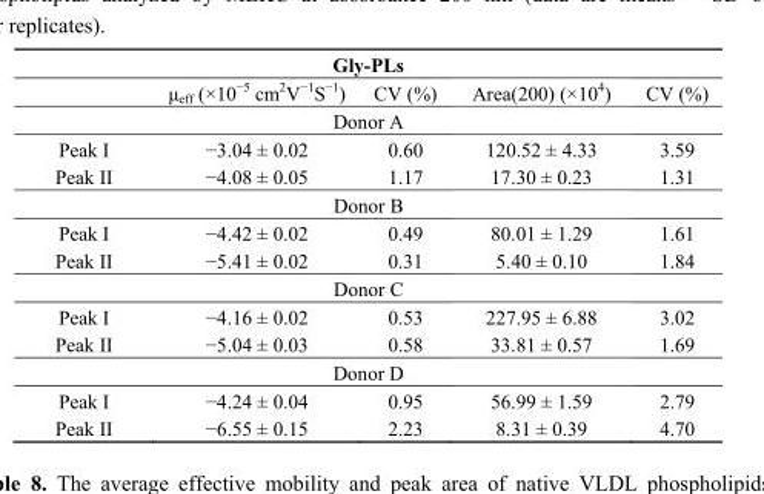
<table><thead><tr><td colspan="5">Gly-PLs</td></tr><tr><td></td><td>μ<sub>eff</sub> (×10<sup>−5</sup> cm<sup>2</sup>V<sup>−1</sup>S<sup>−1</sup>)</td><td>CV (%)</td><td>Area(200) (×10<sup>4</sup>)</td><td>CV (%)</td></tr></thead><tbody><tr><td colspan="5">Donor A</td></tr><tr><td>Peak I</td><td>−3.04 ± 0.02</td><td>0.60</td><td>120.52 ± 4.33</td><td>3.59</td></tr><tr><td>Peak II</td><td>−4.08 ± 0.05</td><td>1.17</td><td>17.30 ± 0.23</td><td>1.31</td></tr><tr><td colspan="5">Donor B</td></tr><tr><td>Peak I</td><td>−4.42 ± 0.02</td><td>0.49</td><td>80.01 ± 1.29</td><td>1.61</td></tr><tr><td>Peak II</td><td>−5.41 ± 0.02</td><td>0.31</td><td>5.40 ± 0.10</td><td>1.84</td></tr><tr><td colspan="5">Donor C</td></tr><tr><td>Peak I</td><td>−4.16 ± 0.02</td><td>0.53</td><td>227.95 ± 6.88</td><td>3.02</td></tr><tr><td>Peak II</td><td>−5.04 ± 0.03</td><td>0.58</td><td>33.81 ± 0.57</td><td>1.69</td></tr><tr><td colspan="5">Donor D</td></tr><tr><td>Peak I</td><td>−4.24 ± 0.04</td><td>0.95</td><td>56.99 ± 1.59</td><td>2.79</td></tr><tr><td>Peak II</td><td>−6.55 ± 0.15</td><td>2.23</td><td>8.31 ± 0.39</td><td>4.70</td></tr></tbody></table>